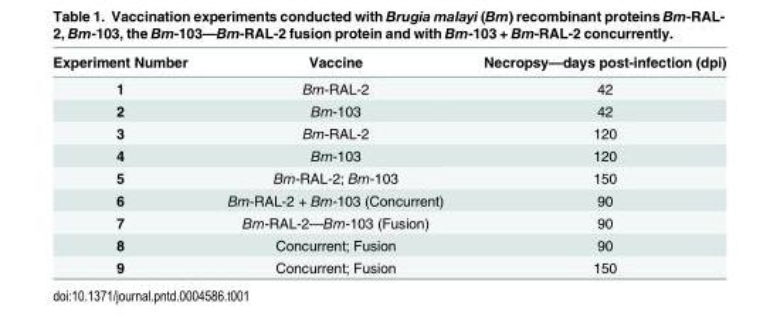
<table><thead><tr><td>Experiment Number</td><td>Vaccine</td><td>Necropsy—days post-infection (dpi)</td></tr></thead><tbody><tr><td>1</td><td>Bm-RAL-2</td><td>42</td></tr><tr><td>2</td><td>Bm-103</td><td>42</td></tr><tr><td>3</td><td>Bm-RAL-2</td><td>120</td></tr><tr><td>4</td><td>Bm-103</td><td>120</td></tr><tr><td>5</td><td>Bm-RAL-2; Bm-103</td><td>150</td></tr><tr><td>6</td><td>Bm-RAL-2 + Bm-103 (Concurrent)</td><td>90</td></tr><tr><td>7</td><td>Bm-RAL-2—Bm-103 (Fusion)</td><td>90</td></tr><tr><td>8</td><td>Concurrent; Fusion</td><td>90</td></tr><tr><td>9</td><td>Concurrent; Fusion</td><td>150</td></tr></tbody></table>